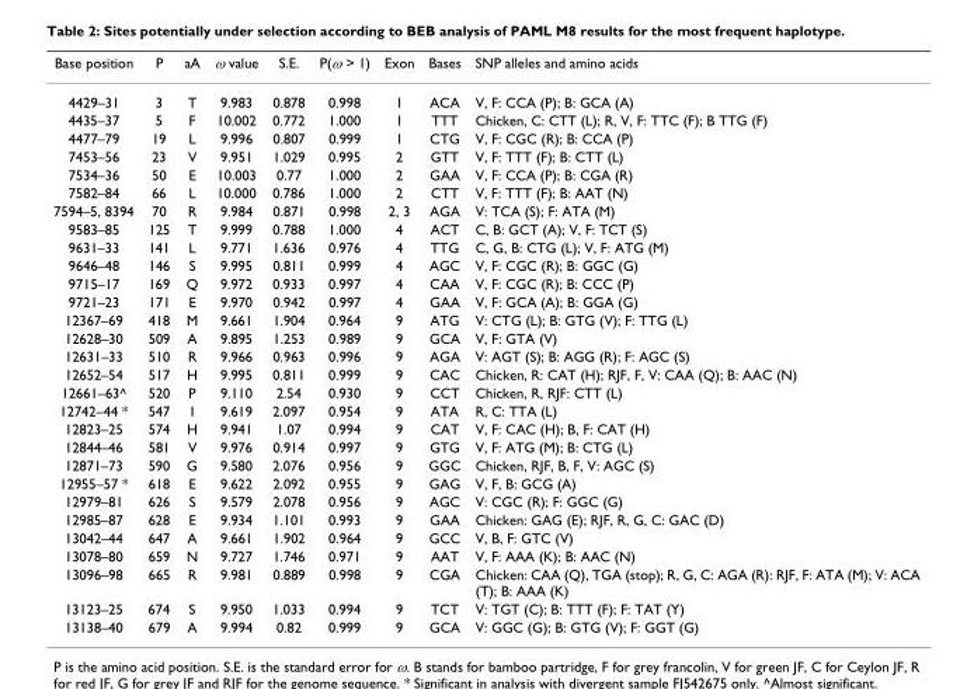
<table><thead><tr><td>Base position</td><td>P</td><td>aA</td><td>ω value</td><td>S.E.</td><td>P(ω &gt; 1)</td><td>Exon</td><td>Bases</td><td>SNP alleles and amino acids</td></tr></thead><tbody><tr><td>4429–31</td><td>3</td><td>T</td><td>9.983</td><td>0.878</td><td>0.998</td><td>1</td><td>ACA</td><td>V, F: CCA (P); B: GCA (A)</td></tr><tr><td>4435–37</td><td>5</td><td>F</td><td>10.002</td><td>0.772</td><td>1.000</td><td>1</td><td>TTT</td><td>Chicken, C: CTT (L); R, V, F: TTC (F); B TTG (F)</td></tr><tr><td>4477–79</td><td>19</td><td>L</td><td>9.996</td><td>0.807</td><td>0.999</td><td>1</td><td>CTG</td><td>V, F: CGC (R); B: CCA (P)</td></tr><tr><td>7453–56</td><td>23</td><td>V</td><td>9.951</td><td>1.029</td><td>0.995</td><td>2</td><td>GTT</td><td>V, F: TTT (F); B: CTT (L)</td></tr><tr><td>7534–36</td><td>50</td><td>E</td><td>10.003</td><td>0.77</td><td>1.000</td><td>2</td><td>GAA</td><td>V, F: CCA (P); B: CGA (R)</td></tr><tr><td>7582–84</td><td>66</td><td>L</td><td>10.000</td><td>0.786</td><td>1.000</td><td>2</td><td>CTT</td><td>V, F: TTT (F); B: AAT (N)</td></tr><tr><td>7594–5, 8394</td><td>70</td><td>R</td><td>9.984</td><td>0.871</td><td>0.998</td><td>2, 3</td><td>AGA</td><td>V: TCA (S); F: ATA (M)</td></tr><tr><td>9583–85</td><td>125</td><td>T</td><td>9.999</td><td>0.788</td><td>1.000</td><td>4</td><td>ACT</td><td>C, B: GCT (A); V, F: TCT (S)</td></tr><tr><td>9631–33</td><td>141</td><td>L</td><td>9.771</td><td>1.636</td><td>0.976</td><td>4</td><td>TTG</td><td>C, G, B: CTG (L); V, F: ATG (M)</td></tr><tr><td>9646–48</td><td>146</td><td>S</td><td>9.995</td><td>0.811</td><td>0.999</td><td>4</td><td>AGC</td><td>V, F: CGC (R); B: GGC (G)</td></tr><tr><td>9715–17</td><td>169</td><td>Q</td><td>9.972</td><td>0.933</td><td>0.997</td><td>4</td><td>CAA</td><td>V, F: CGC (R); B: CCC (P)</td></tr><tr><td>9721–23</td><td>171</td><td>E</td><td>9.970</td><td>0.942</td><td>0.997</td><td>4</td><td>GAA</td><td>V, F: GCA (A); B: GGA (G)</td></tr><tr><td>12367–69</td><td>418</td><td>M</td><td>9.661</td><td>1.904</td><td>0.964</td><td>9</td><td>ATG</td><td>V: CTG (L); B: GTG (V); F: TTG (L)</td></tr><tr><td>12628–30</td><td>509</td><td>A</td><td>9.895</td><td>1.253</td><td>0.989</td><td>9</td><td>GCA</td><td>V, F: GTA (V)</td></tr><tr><td>12631–33</td><td>510</td><td>R</td><td>9.966</td><td>0.963</td><td>0.996</td><td>9</td><td>AGA</td><td>V: AGT (S); B: AGG (R); F: AGC (S)</td></tr><tr><td>12652–54</td><td>517</td><td>H</td><td>9.995</td><td>0.811</td><td>0.999</td><td>9</td><td>CAC</td><td>Chicken, R: CAT (H); RJF, F, V: CAA (Q); B: AAC (N)</td></tr><tr><td>12661–63^</td><td>520</td><td>P</td><td>9.110</td><td>2.54</td><td>0.930</td><td>9</td><td>CCT</td><td>Chicken, R, RJF: CTT (L)</td></tr><tr><td>12742–44 *</td><td>547</td><td>I</td><td>9.619</td><td>2.097</td><td>0.954</td><td>9</td><td>ATA</td><td>R, C: TTA (L)</td></tr><tr><td>12823–25</td><td>574</td><td>H</td><td>9.941</td><td>1.07</td><td>0.994</td><td>9</td><td>CAT</td><td>V, F: CAC (H); B, F: CAT (H)</td></tr><tr><td>12844–46</td><td>581</td><td>V</td><td>9.976</td><td>0.914</td><td>0.997</td><td>9</td><td>GTG</td><td>V, F: ATG (M); B: CTG (L)</td></tr><tr><td>12871–73</td><td>590</td><td>G</td><td>9.580</td><td>2.076</td><td>0.956</td><td>9</td><td>GGC</td><td>Chicken, RJF, B, F, V: AGC (S)</td></tr><tr><td>12955–57 *</td><td>618</td><td>E</td><td>9.622</td><td>2.092</td><td>0.955</td><td>9</td><td>GAG</td><td>V, F, B: GCG (A)</td></tr><tr><td>12979–81</td><td>626</td><td>S</td><td>9.579</td><td>2.078</td><td>0.956</td><td>9</td><td>AGC</td><td>V: CGC (R); F: GGC (G)</td></tr><tr><td>12985–87</td><td>628</td><td>E</td><td>9.934</td><td>1.101</td><td>0.993</td><td>9</td><td>GAA</td><td>Chicken: GAG (E); RJF, R, G, C: GAC (D)</td></tr><tr><td>13042–44</td><td>647</td><td>A</td><td>9.661</td><td>1.902</td><td>0.964</td><td>9</td><td>GCC</td><td>V, B, F: GTC (V)</td></tr><tr><td>13078–80</td><td>659</td><td>N</td><td>9.727</td><td>1.746</td><td>0.971</td><td>9</td><td>AAT</td><td>V, F: AAA (K); B: AAC (N)</td></tr><tr><td>13096–98</td><td>665</td><td>R</td><td>9.981</td><td>0.889</td><td>0.998</td><td>9</td><td>CGA</td><td>Chicken: CAA (Q), TGA (stop); R, G, C: AGA (R): RJF, F: ATA (M); V: ACA (T); B: AAA (K)</td></tr><tr><td>13123–25</td><td>674</td><td>S</td><td>9.950</td><td>1.033</td><td>0.994</td><td>9</td><td>TCT</td><td>V: TGT (C); B: TTT (F); F: TAT (Y)</td></tr><tr><td>13138–40</td><td>679</td><td>A</td><td>9.994</td><td>0.82</td><td>0.999</td><td>9</td><td>GCA</td><td>V: GGC (G); B: GTG (V); F: GGT (G)</td></tr></tbody></table>